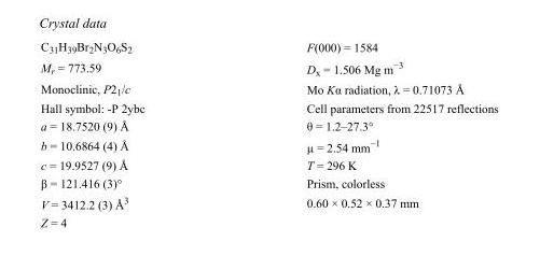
<table><tbody><tr><td>C<sub>31</sub>H<sub>39</sub>Br<sub>2</sub>N<sub>3</sub>O<sub>6</sub>S<sub>2</sub></td><td>F(000) = 1584</td></tr><tr><td>M<sub>r</sub> = 773.59</td><td>D<sub>x</sub> = 1.506 Mg m<sup>−3</sup></td></tr><tr><td>Monoclinic, P2<sub>1</sub>/c</td><td>Mo Kα radiation, λ = 0.71073 Å</td></tr><tr><td>Hall symbol: -P 2ybc</td><td>Cell parameters from 22517 reflections</td></tr><tr><td>a = 18.7520 (9) Å</td><td>θ = 1.2–27.3°</td></tr><tr><td>b = 10.6864 (4) Å</td><td>µ = 2.54 mm<sup>−1</sup></td></tr><tr><td>c = 19.9527 (9) Å</td><td>T = 296 K</td></tr><tr><td>β = 121.416 (3)°</td><td>Prism, colorless</td></tr><tr><td>V = 3412.2 (3) Å<sup>3</sup></td><td>0.60 × 0.52 × 0.37 mm</td></tr><tr><td>Z = 4</td><td></td></tr></tbody></table>